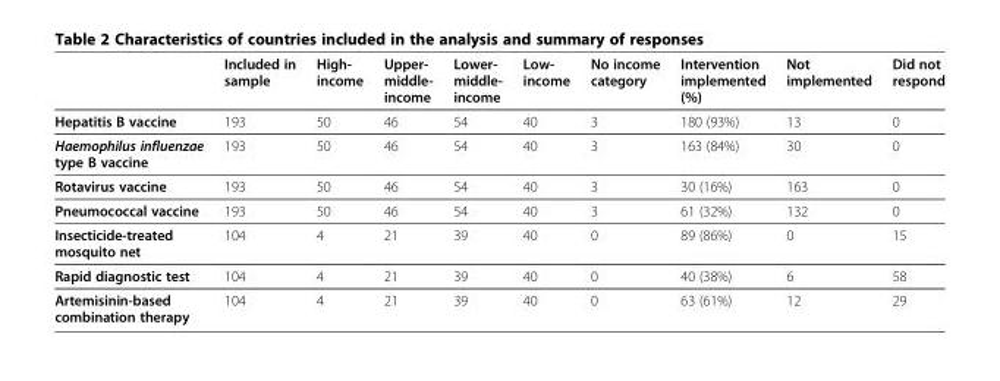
<table><thead><tr><td></td><td>Included in sample</td><td>High- income</td><td>Upper- middle- income</td><td>Lower- middle- income</td><td>Low- income</td><td>No income category</td><td>Intervention implemented (%)</td><td>Not implemented</td><td>Did not respond</td></tr></thead><tbody><tr><td>Hepatitis B vaccine</td><td>193</td><td>50</td><td>46</td><td>54</td><td>40</td><td>3</td><td>180 (93%)</td><td>13</td><td>0</td></tr><tr><td>Haemophilus influenzae type B vaccine</td><td>193</td><td>50</td><td>46</td><td>54</td><td>40</td><td>3</td><td>163 (84%)</td><td>30</td><td>0</td></tr><tr><td>Rotavirus vaccine</td><td>193</td><td>50</td><td>46</td><td>54</td><td>40</td><td>3</td><td>30 (16%)</td><td>163</td><td>0</td></tr><tr><td>Pneumococcal vaccine</td><td>193</td><td>50</td><td>46</td><td>54</td><td>40</td><td>3</td><td>61 (32%)</td><td>132</td><td>0</td></tr><tr><td>Insecticide-treated mosquito net</td><td>104</td><td>4</td><td>21</td><td>39</td><td>40</td><td>0</td><td>89 (86%)</td><td>0</td><td>15</td></tr><tr><td>Rapid diagnostic test</td><td>104</td><td>4</td><td>21</td><td>39</td><td>40</td><td>0</td><td>40 (38%)</td><td>6</td><td>58</td></tr><tr><td>Artemisinin-based combination therapy</td><td>104</td><td>4</td><td>21</td><td>39</td><td>40</td><td>0</td><td>63 (61%)</td><td>12</td><td>29</td></tr></tbody></table>